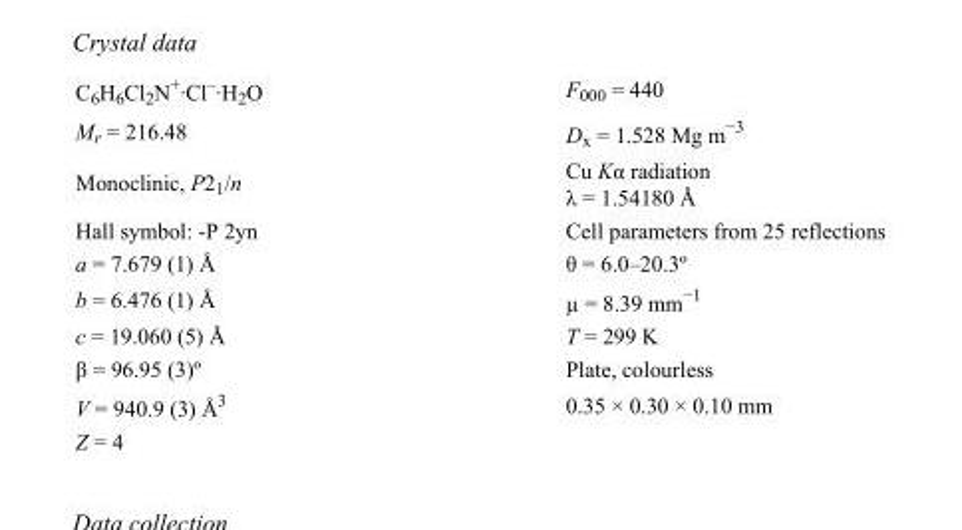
<table><tbody><tr><td>C<sub>6</sub>H<sub>6</sub>Cl<sub>2</sub>N<sup>+</sup>·Cl<sup>–</sup>·H<sub>2</sub>O</td><td>F000 = 440</td></tr><tr><td>M<sub>r</sub> = 216.48</td><td>D<sub>x</sub> = 1.528 Mg m<sup>−3</sup></td></tr><tr><td>Monoclinic, P2<sub>1</sub>/n</td><td>Cu Kα radiation λ = 1.54180 Å</td></tr><tr><td>Hall symbol: -P 2yn</td><td>Cell parameters from 25 reflections</td></tr><tr><td>a = 7.679 (1) Å</td><td>θ = 6.0–20.3º</td></tr><tr><td>b = 6.476 (1) Å</td><td>µ = 8.39 mm<sup>−1</sup></td></tr><tr><td>c = 19.060 (5) Å</td><td>T = 299 K</td></tr><tr><td>β = 96.95 (3)º</td><td>Plate, colourless</td></tr><tr><td>V = 940.9 (3) Å<sup>3</sup></td><td>0.35 × 0.30 × 0.10 mm</td></tr><tr><td>Z = 4</td><td></td></tr></tbody></table>